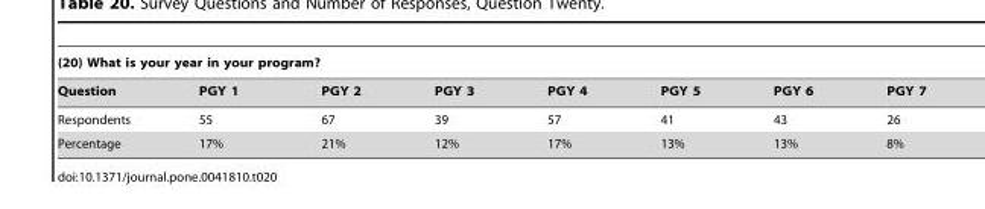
<table><thead><tr><td colspan="8">(20) What is your year in your program?</td></tr><tr><td>Question</td><td>PGY 1</td><td>PGY 2</td><td>PGY 3</td><td>PGY 4</td><td>PGY 5</td><td>PGY 6</td><td>PGY 7</td></tr></thead><tbody><tr><td>Respondents</td><td>55</td><td>67</td><td>39</td><td>57</td><td>41</td><td>43</td><td>26</td></tr><tr><td>Percentage</td><td>17%</td><td>21%</td><td>12%</td><td>17%</td><td>13%</td><td>13%</td><td>8%</td></tr></tbody></table>